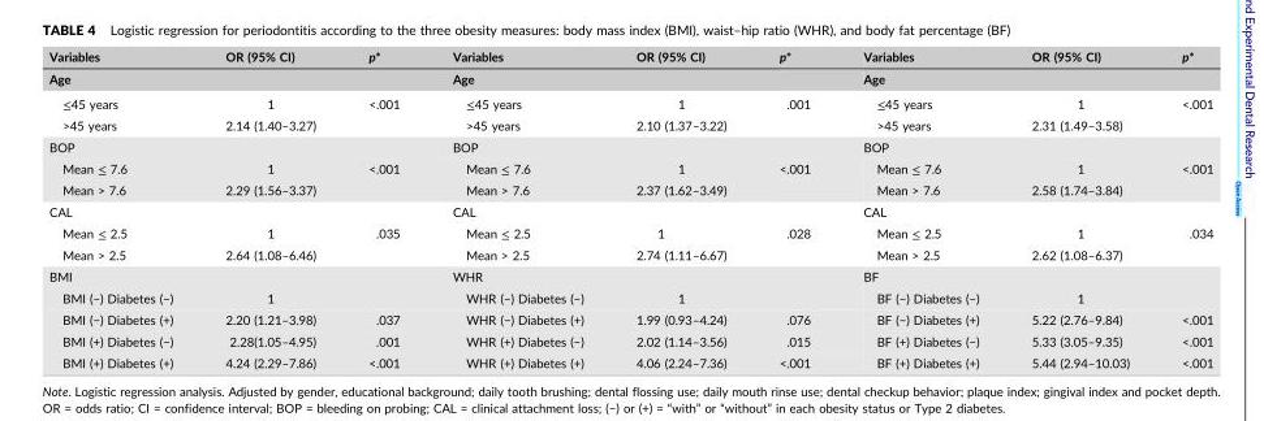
<table><thead><tr><td rowspan="2">Variables Age</td><td rowspan="2">OR (95% CI)</td><td rowspan="2">p*</td><td rowspan="2">Variables Age</td><td rowspan="2">OR (95% CI)</td><td rowspan="2">p*</td><td rowspan="2">Variables Age</td><td rowspan="2">OR (95% CI)</td><td rowspan="2">p*</td></tr><tr></tr></thead><tbody><tr><td>≤45 years</td><td>1</td><td>&lt;.001</td><td>≤45 years</td><td>1</td><td>.001</td><td>≤45 years</td><td>1</td><td>&lt;.001</td></tr><tr><td>&gt;45 years</td><td>2.14 (1.40–3.27)</td><td></td><td>&gt;45 years</td><td>2.10 (1.37–3.22)</td><td></td><td>&gt;45 years</td><td>2.31 (1.49–3.58)</td><td></td></tr><tr><td>BOP</td><td></td><td></td><td>BOP</td><td></td><td></td><td>BOP</td><td></td><td></td></tr><tr><td>Mean ≤ 7.6</td><td>1</td><td>&lt;.001</td><td>Mean ≤ 7.6</td><td>1</td><td>&lt;.001</td><td>Mean ≤ 7.6</td><td>1</td><td>&lt;.001</td></tr><tr><td>Mean &gt; 7.6</td><td>2.29 (1.56–3.37)</td><td></td><td>Mean &gt; 7.6</td><td>2.37 (1.62–3.49)</td><td></td><td>Mean &gt; 7.6</td><td>2.58 (1.74–3.84)</td><td></td></tr><tr><td>CAL</td><td></td><td></td><td>CAL</td><td></td><td></td><td>CAL</td><td></td><td></td></tr><tr><td>Mean ≤ 2.5</td><td>1</td><td>.035</td><td>Mean ≤ 2.5</td><td>1</td><td>.028</td><td>Mean ≤ 2.5</td><td>1</td><td>.034</td></tr><tr><td>Mean &gt; 2.5</td><td>2.64 (1.08–6.46)</td><td></td><td>Mean &gt; 2.5</td><td>2.74 (1.11–6.67)</td><td></td><td>Mean &gt; 2.5</td><td>2.62 (1.08–6.37)</td><td></td></tr><tr><td>BMI</td><td></td><td></td><td>WHR</td><td></td><td></td><td>BF</td><td></td><td></td></tr><tr><td>BMI (−) Diabetes (−)</td><td>1</td><td></td><td>WHR (−) Diabetes (−)</td><td>1</td><td></td><td>BF (−) Diabetes (−)</td><td>1</td><td></td></tr><tr><td>BMI (−) Diabetes (+)</td><td>2.20 (1.21–3.98)</td><td>.037</td><td>WHR (−) Diabetes (+)</td><td>1.99 (0.93–4.24)</td><td>.076</td><td>BF (−) Diabetes (+)</td><td>5.22 (2.76–9.84)</td><td>&lt;.001</td></tr><tr><td>BMI (+) Diabetes (−)</td><td>2.28(1.05–4.95)</td><td>.001</td><td>WHR (+) Diabetes (−)</td><td>2.02 (1.14–3.56)</td><td>.015</td><td>BF (+) Diabetes (−)</td><td>5.33 (3.05–9.35)</td><td>&lt;.001</td></tr><tr><td>BMI (+) Diabetes (+)</td><td>4.24 (2.29–7.86)</td><td>&lt;.001</td><td>WHR (+) Diabetes (+)</td><td>4.06 (2.24–7.36)</td><td>&lt;.001</td><td>BF (+) Diabetes (+)</td><td>5.44 (2.94–10.03)</td><td>&lt;.001</td></tr></tbody></table>